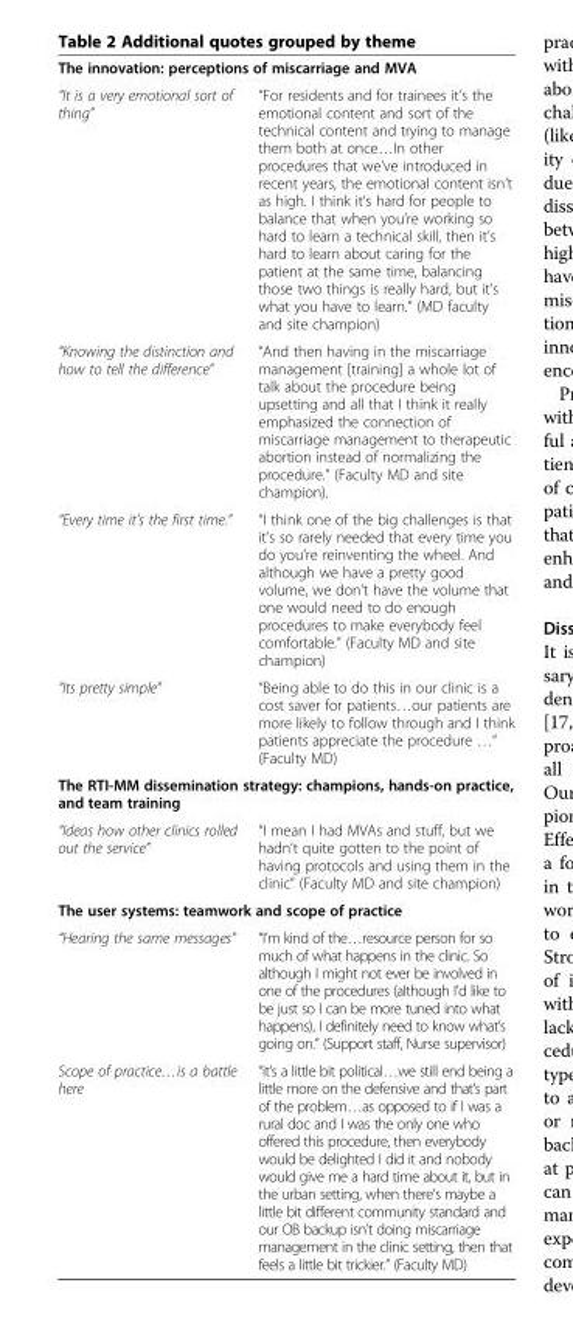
<table><tbody><tr><td colspan="2">The innovation: perceptions of miscarriage and MVA</td></tr><tr><td>“It is a very emotional sort of thing”</td><td>“For residents and for trainees it’s the emotional content and sort of the technical content and trying to manage them both at once…In other procedures that we’ve introduced in recent years, the emotional content isn’t as high. I think it’s hard for people to balance that when you’re working so hard to learn a technical skill, then it’s hard to learn about caring for the patient at the same time, balancing those two things is really hard, but it’s what you have to learn.” (MD faculty and site champion)</td></tr><tr><td>“Knowing the distinction and how to tell the difference”</td><td>“And then having in the miscarriage management [training] a whole lot of talk about the procedure being upsetting and all that I think it really emphasized the connection of miscarriage management to therapeutic abortion instead of normalizing the procedure.” (Faculty MD and site champion).</td></tr><tr><td>“Every time it&#x27;s the first time.”</td><td>“I think one of the big challenges is that it’s so rarely needed that every time you do you’re reinventing the wheel. And although we have a pretty good volume, we don’t have the volume that one would need to do enough procedures to make everybody feel comfortable.” (Faculty MD and site champion)</td></tr><tr><td>“Its pretty simple”</td><td>“Being able to do this in our clinic is a cost saver for patients…our patients are more likely to follow through and I think patients appreciate the procedure …” (Faculty MD)</td></tr><tr><td colspan="2">The RTI-MM dissemination strategy: champions, hands-on practice, and team training</td></tr><tr><td>“Ideas how other clinics rolled out the service”</td><td>“I mean I had MVAs and stuff, but we hadn’t quite gotten to the point of having protocols and using them in the clinic” (Faculty MD and site champion)</td></tr><tr><td colspan="2">The user systems: teamwork and scope of practice</td></tr><tr><td>“Hearing the same messages”</td><td>“I’m kind of the…resource person for so much of what happens in the clinic. So although I might not ever be involved in one of the procedures (although I’d like to be just so I can be more tuned into what happens), I definitely need to know what’s going on.” (Support staff, Nurse supervisor)</td></tr><tr><td>Scope of practice…is a battle here</td><td>“it’s a little bit political…we still end being a little more on the defensive and that’s part of the problem…as opposed to if I was a rural doc and I was the only one who offered this procedure, then everybody would be delighted I did it and nobody would give me a hard time about it, but in the urban setting, when there’s maybe a little bit different community standard and our OB backup isn’t doing miscarriage management in the clinic setting, then that feels a little bit trickier.” (Faculty MD)</td></tr></tbody></table>